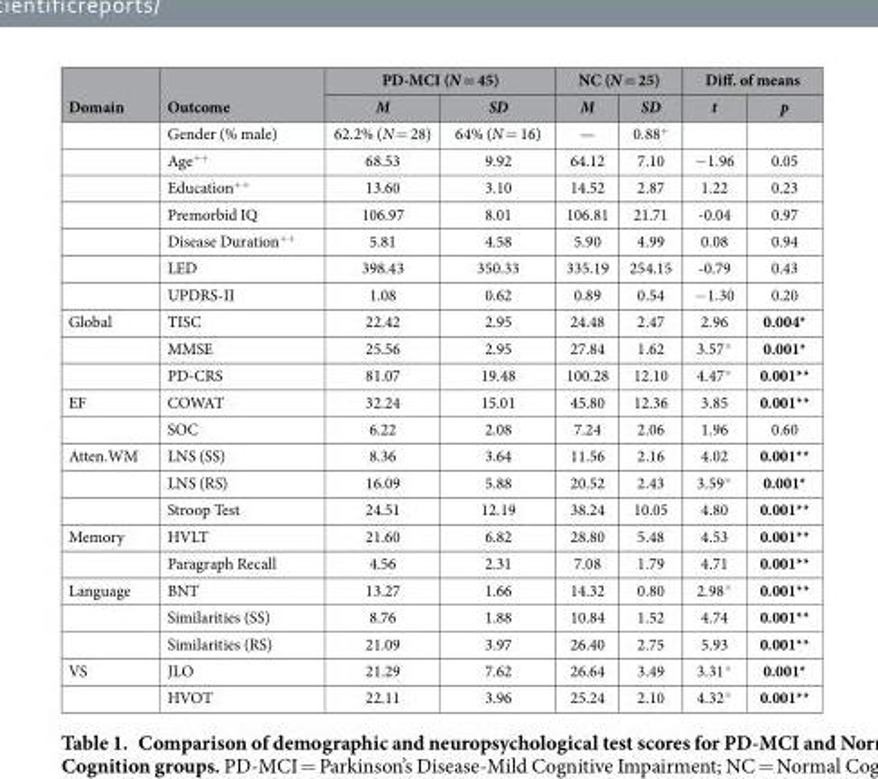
<table><thead><tr><td rowspan="2">Domain</td><td rowspan="2">Outcome</td><td colspan="2">PD-MCI (N = 45)</td><td colspan="2">NC (N = 25)</td><td colspan="2">Diff. of means</td></tr><tr><td>M</td><td>SD</td><td>M</td><td>SD</td><td>t</td><td>p</td></tr></thead><tbody><tr><td></td><td>Gender (% male)</td><td>62.2% (N = 28)</td><td>64% (N = 16)</td><td>—</td><td>0.88<sup>+</sup></td><td></td><td></td></tr><tr><td></td><td>Age<sup>++</sup></td><td>68.53</td><td>9.92</td><td>64.12</td><td>7.10</td><td>− 1.96</td><td>0.05</td></tr><tr><td></td><td>Education<sup>++</sup></td><td>13.60</td><td>3.10</td><td>14.52</td><td>2.87</td><td>1.22</td><td>0.23</td></tr><tr><td></td><td>Premorbid IQ</td><td>106.97</td><td>8.01</td><td>106.81</td><td>21.71</td><td>-0.04</td><td>0.97</td></tr><tr><td></td><td>Disease Duration<sup>++</sup></td><td>5.81</td><td>4.58</td><td>5.90</td><td>4.99</td><td>0.08</td><td>0.94</td></tr><tr><td></td><td>LED</td><td>398.43</td><td>350.33</td><td>335.19</td><td>254.15</td><td>-0.79</td><td>0.43</td></tr><tr><td></td><td>UPDRS-II</td><td>1.08</td><td>0.62</td><td>0.89</td><td>0.54</td><td>− 1.30</td><td>0.20</td></tr><tr><td rowspan="3">Global</td><td>TISC</td><td>22.42</td><td>2.95</td><td>24.48</td><td>2.47</td><td>2.96</td><td>0.004*</td></tr><tr><td>MMSE</td><td>25.56</td><td>2.95</td><td>27.84</td><td>1.62</td><td>3.57<sup>×</sup></td><td>0.001*</td></tr><tr><td>PD-CRS</td><td>81.07</td><td>19.48</td><td>100.28</td><td>12.10</td><td>4.47<sup>×</sup></td><td>0.001**</td></tr><tr><td rowspan="2">EF</td><td>COWAT</td><td>32.24</td><td>15.01</td><td>45.80</td><td>12.36</td><td>3.85</td><td>0.001**</td></tr><tr><td>SOC</td><td>6.22</td><td>2.08</td><td>7.24</td><td>2.06</td><td>1.96</td><td>0.60</td></tr><tr><td rowspan="3">Atten.WM</td><td>LNS (SS)</td><td>8.36</td><td>3.64</td><td>11.56</td><td>2.16</td><td>4.02</td><td>0.001**</td></tr><tr><td>LNS (RS)</td><td>16.09</td><td>5.88</td><td>20.52</td><td>2.43</td><td>3.59<sup>×</sup></td><td>0.001*</td></tr><tr><td>Stroop Test</td><td>24.51</td><td>12.19</td><td>38.24</td><td>10.05</td><td>4.80</td><td>0.001**</td></tr><tr><td rowspan="2">Memory</td><td>HVLT</td><td>21.60</td><td>6.82</td><td>28.80</td><td>5.48</td><td>4.53</td><td>0.001**</td></tr><tr><td>Paragraph Recall</td><td>4.56</td><td>2.31</td><td>7.08</td><td>1.79</td><td>4.71</td><td>0.001**</td></tr><tr><td rowspan="3">Language</td><td>BNT</td><td>13.27</td><td>1.66</td><td>14.32</td><td>0.80</td><td>2.98<sup>×</sup></td><td>0.001**</td></tr><tr><td>Similarities (SS)</td><td>8.76</td><td>1.88</td><td>10.84</td><td>1.52</td><td>4.74</td><td>0.001**</td></tr><tr><td>Similarities (RS)</td><td>21.09</td><td>3.97</td><td>26.40</td><td>2.75</td><td>5.93</td><td>0.001**</td></tr><tr><td rowspan="2">VS</td><td>JLO</td><td>21.29</td><td>7.62</td><td>26.64</td><td>3.49</td><td>3.31<sup>×</sup></td><td>0.001*</td></tr><tr><td>HVOT</td><td>22.11</td><td>3.96</td><td>25.24</td><td>2.10</td><td>4.32<sup>×</sup></td><td>0.001**</td></tr></tbody></table>